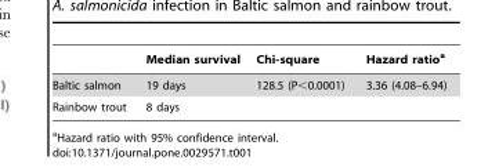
<table><thead><tr><td></td><td>Median survival</td><td>Chi-square</td><td>Hazard ratio<sup>a</sup></td></tr></thead><tbody><tr><td>Baltic salmon</td><td>19 days</td><td>128.5 (P&lt;0.0001)</td><td>3.36 (4.08–6.94)</td></tr><tr><td>Rainbow trout</td><td>8 days</td><td></td><td></td></tr></tbody></table>